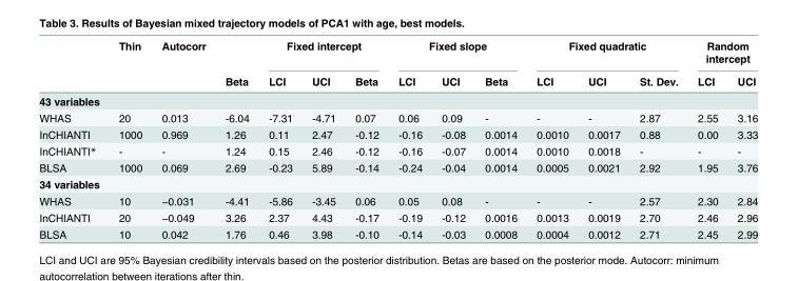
<table><thead><tr><td rowspan="2"></td><td rowspan="2">Thin</td><td rowspan="2">Autocorr</td><td rowspan="2">Beta</td><td colspan="3">Fixed intercept</td><td colspan="3">Fixed slope</td><td colspan="3">Fixed quadratic</td><td colspan="2">Random intercept</td></tr><tr><td>LCI</td><td>UCI</td><td>Beta</td><td>LCI</td><td>UCI</td><td>Beta</td><td>LCI</td><td>UCI</td><td>St. Dev.</td><td>LCI</td><td>UCI</td></tr></thead><tbody><tr><td colspan="15">43 variables</td></tr><tr><td>WHAS</td><td>20</td><td>0.013</td><td>-6.04</td><td>-7.31</td><td>-4.71</td><td>0.07</td><td>0.06</td><td>0.09</td><td>-</td><td>-</td><td>-</td><td>2.87</td><td>2.55</td><td>3.16</td></tr><tr><td>InCHIANTI</td><td>1000</td><td>0.969</td><td>1.26</td><td>0.11</td><td>2.47</td><td>-0.12</td><td>-0.16</td><td>-0.08</td><td>0.0014</td><td>0.0010</td><td>0.0017</td><td>0.88</td><td>0.00</td><td>3.33</td></tr><tr><td>InCHIANTI*</td><td>-</td><td>-</td><td>1.24</td><td>0.15</td><td>2.46</td><td>-0.12</td><td>-0.16</td><td>-0.07</td><td>0.0014</td><td>0.0010</td><td>0.0018</td><td>-</td><td>-</td><td>-</td></tr><tr><td>BLSA</td><td>1000</td><td>0.069</td><td>2.69</td><td>-0.23</td><td>5.89</td><td>-0.14</td><td>-0.24</td><td>-0.04</td><td>0.0014</td><td>0.0005</td><td>0.0021</td><td>2.92</td><td>1.95</td><td>3.76</td></tr><tr><td colspan="15">34 variables</td></tr><tr><td>WHAS</td><td>10</td><td>−0.031</td><td>-4.41</td><td>-5.86</td><td>-3.45</td><td>0.06</td><td>0.05</td><td>0.08</td><td>-</td><td>-</td><td>-</td><td>2.57</td><td>2.30</td><td>2.84</td></tr><tr><td>InCHIANTI</td><td>20</td><td>−0.049</td><td>3.26</td><td>2.37</td><td>4.43</td><td>-0.17</td><td>-0.19</td><td>-0.12</td><td>0.0016</td><td>0.0013</td><td>0.0019</td><td>2.70</td><td>2.46</td><td>2.96</td></tr><tr><td>BLSA</td><td>10</td><td>0.042</td><td>1.76</td><td>0.46</td><td>3.98</td><td>-0.10</td><td>-0.14</td><td>-0.03</td><td>0.0008</td><td>0.0004</td><td>0.0012</td><td>2.71</td><td>2.45</td><td>2.99</td></tr></tbody></table>